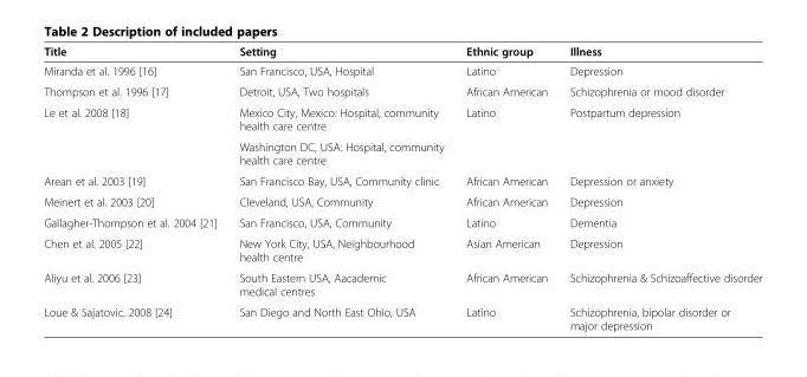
<table><thead><tr><td>Title</td><td>Setting</td><td>Ethnic group</td><td>Illness</td></tr></thead><tbody><tr><td>Miranda et al. 1996 [16]</td><td>San Francisco, USA, Hospital</td><td>Latino</td><td>Depression</td></tr><tr><td>Thompson et al. 1996 [17]</td><td>Detroit, USA, Two hospitals</td><td>African American</td><td>Schizophrenia or mood disorder</td></tr><tr><td rowspan="2">Le et al. 2008 [18]</td><td>Mexico City, Mexico: Hospital, community health care centre</td><td rowspan="2">Latino</td><td rowspan="2">Postpartum depression</td></tr><tr><td>Washington DC, USA: Hospital, community health care centre</td></tr><tr><td>Arean et al. 2003 [19]</td><td>San Francisco Bay, USA, Community clinic</td><td>African American</td><td>Depression or anxiety</td></tr><tr><td>Meinert et al. 2003 [20]</td><td>Cleveland, USA, Community</td><td>African American</td><td>Depression</td></tr><tr><td>Gallagher-Thompson et al. 2004 [21]</td><td>San Francisco, USA, Community</td><td>Latino</td><td>Dementia</td></tr><tr><td>Chen et al. 2005 [22]</td><td>New York City, USA, Neighbourhood health centre</td><td>Asian American</td><td>Depression</td></tr><tr><td>Aliyu et al. 2006 [23]</td><td>South Eastern USA, Aacademic medical centres</td><td>African American</td><td>Schizophrenia &amp; Schizoaffective disorder</td></tr><tr><td>Loue &amp; Sajatovic. 2008 [24]</td><td>San Diego and North East Ohio, USA</td><td>Latino</td><td>Schizophrenia, bipolar disorder or major depression</td></tr></tbody></table>